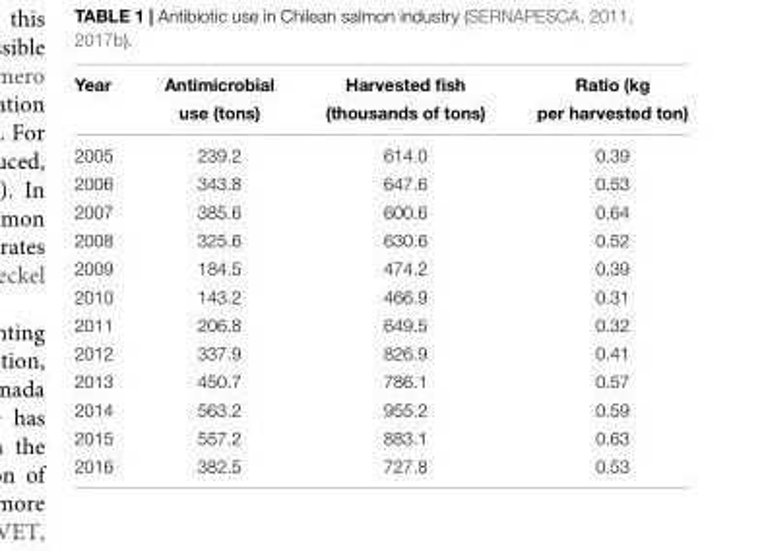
<table><thead><tr><td>Year</td><td>Antimicrobial use (tons)</td><td>Harvested fish (thousands of tons)</td><td>Ratio (kg per harvested ton)</td></tr></thead><tbody><tr><td>2005</td><td>239.2</td><td>614.0</td><td>0.39</td></tr><tr><td>2006</td><td>343.8</td><td>647.6</td><td>0.53</td></tr><tr><td>2007</td><td>385.6</td><td>600.6</td><td>0.64</td></tr><tr><td>2008</td><td>325.6</td><td>630.6</td><td>0.52</td></tr><tr><td>2009</td><td>184.5</td><td>474.2</td><td>0.39</td></tr><tr><td>2010</td><td>143.2</td><td>466.9</td><td>0.31</td></tr><tr><td>2011</td><td>206.8</td><td>649.5</td><td>0.32</td></tr><tr><td>2012</td><td>337.9</td><td>826.9</td><td>0.41</td></tr><tr><td>2013</td><td>450.7</td><td>786.1</td><td>0.57</td></tr><tr><td>2014</td><td>563.2</td><td>955.2</td><td>0.59</td></tr><tr><td>2015</td><td>557.2</td><td>883.1</td><td>0.63</td></tr><tr><td>2016</td><td>382.5</td><td>727.8</td><td>0.53</td></tr></tbody></table>